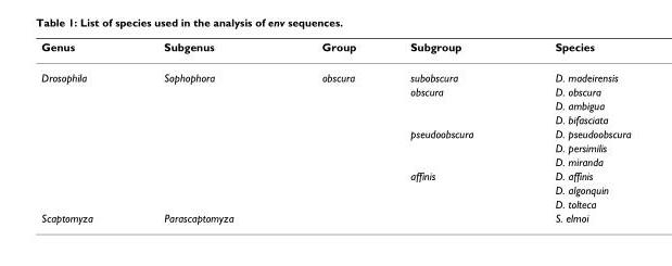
<table><thead><tr><td>Genus</td><td>Subgenus</td><td>Group</td><td>Subgroup</td><td>Species</td></tr></thead><tbody><tr><td rowspan="10">Drosophila</td><td>Sophophora</td><td>obscura</td><td>subobscura</td><td>D. madeirensis</td></tr><tr><td></td><td></td><td>obscura</td><td>D. obscura</td></tr><tr><td></td><td></td><td></td><td>D. ambigua</td></tr><tr><td></td><td></td><td></td><td>D. bifasciata</td></tr><tr><td></td><td></td><td>pseudoobscura</td><td>D. pseudoobscura</td></tr><tr><td></td><td></td><td></td><td>D. persimilis</td></tr><tr><td></td><td></td><td></td><td>D. miranda</td></tr><tr><td></td><td></td><td>affinis</td><td>D. affinis</td></tr><tr><td></td><td></td><td></td><td>D. algonquin</td></tr><tr><td></td><td></td><td></td><td>D. tolteca</td></tr><tr><td>Scaptomyza</td><td>Parascaptomyza</td><td></td><td></td><td>S. elmoi</td></tr></tbody></table>